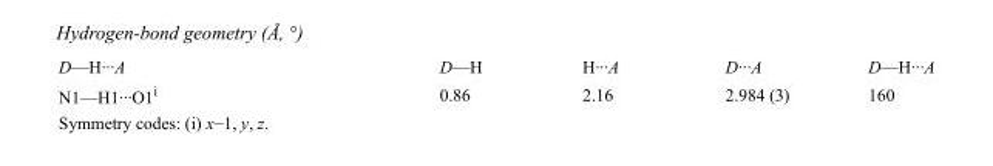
<table><tbody><tr><td>D—H···A</td><td>D—H</td><td>H···A</td><td>D···A</td><td>D—H···A</td></tr><tr><td>N1—H1···O1<sup>i</sup></td><td>0.86</td><td>2.16</td><td>2.984 (3)</td><td>160</td></tr></tbody></table>